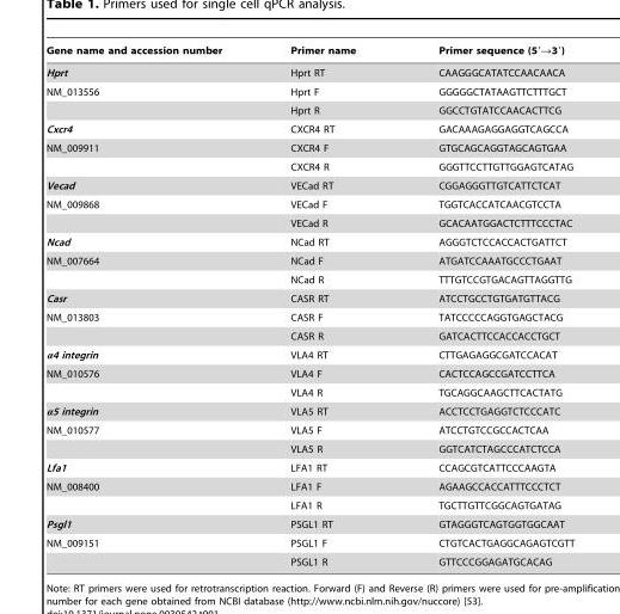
<table><thead><tr><td>Gene name and accession number</td><td>Primer name</td><td>Primer sequence (5′→3′)</td></tr></thead><tbody><tr><td>Hprt</td><td>Hprt RT</td><td>CAAGGGCATATCCAACAACA</td></tr><tr><td rowspan="2">NM_013556</td><td>Hprt F</td><td>GGGGGCTATAAGTTCTTTGCT</td></tr><tr><td>Hprt R</td><td>GGCCTGTATCCAACACTTCG</td></tr><tr><td>Cxcr4</td><td>CXCR4 RT</td><td>GACAAAGAGGAGGTCAGCCA</td></tr><tr><td rowspan="2">NM_009911</td><td>CXCR4 F</td><td>GTGCAGCAGGTAGCAGTGAA</td></tr><tr><td>CXCR4 R</td><td>GGGTTCCTTGTTGGAGTCATAG</td></tr><tr><td>Vecad</td><td>VECad RT</td><td>CGGAGGGTTGTCATTCTCAT</td></tr><tr><td rowspan="2">NM_009868</td><td>VECad F</td><td>TGGTCACCATCAACGTCCTA</td></tr><tr><td>VECad R</td><td>GCACAATGGACTCTTTCCCTAC</td></tr><tr><td>Ncad</td><td>NCad RT</td><td>AGGGTCTCCACCACTGATTCT</td></tr><tr><td rowspan="2">NM_007664</td><td>NCad F</td><td>ATGATCCAAATGCCCTGAAT</td></tr><tr><td>NCad R</td><td>TTTGTCCGTGACAGTTAGGTTG</td></tr><tr><td>Casr</td><td>CASR RT</td><td>ATCCTGCCTGTGATGTTACG</td></tr><tr><td rowspan="2">NM_013803</td><td>CASR F</td><td>TATCCCCCAGGTGAGCTACG</td></tr><tr><td>CASR R</td><td>GATCACTTCCACCACCTGCT</td></tr><tr><td>α4 integrin</td><td>VLA4 RT</td><td>CTTGAGAGGCGATCCACAT</td></tr><tr><td rowspan="2">NM_010576</td><td>VLA4 F</td><td>CACTCCAGCCGATCCTTCA</td></tr><tr><td>VLA4 R</td><td>TGCAGGCAAGCTTCACTATG</td></tr><tr><td>α5 integrin</td><td>VLA5 RT</td><td>ACCTCCTGAGGTCTCCCATC</td></tr><tr><td rowspan="2">NM_010577</td><td>VLA5 F</td><td>ATCCTGTCCGCCACTCAA</td></tr><tr><td>VLA5 R</td><td>GGTCATCTAGCCCATCTCCA</td></tr><tr><td>Lfa1</td><td>LFA1 RT</td><td>CCAGCGTCATTCCCAAGTA</td></tr><tr><td rowspan="2">NM_008400</td><td>LFA1 F</td><td>AGAAGCCACCATTTCCCTCT</td></tr><tr><td>LFA1 R</td><td>TGCTTGTTCGGCAGTGATAG</td></tr><tr><td>Psgl1</td><td>PSGL1 RT</td><td>GTAGGGTCAGTGGTGGCAAT</td></tr><tr><td rowspan="2">NM_009151</td><td>PSGL1 F</td><td>CTGTCACTGAGGCAGAGTCGTT</td></tr><tr><td>PSGL1 R</td><td>GTTCCCGGAGATGCACAG</td></tr></tbody></table>